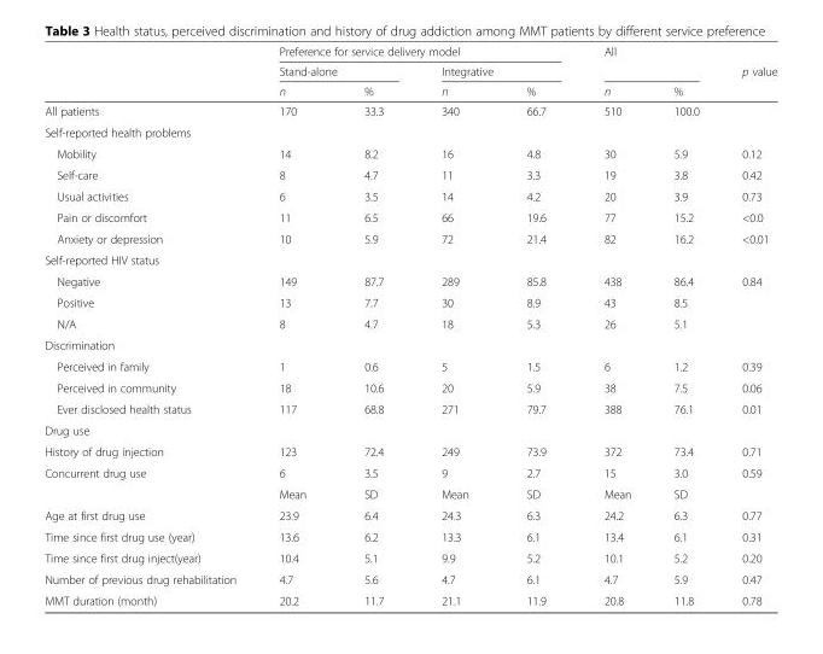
<table><thead><tr><td rowspan="3"></td><td colspan="4">Preference for service delivery model</td><td rowspan="2" colspan="2">All</td><td rowspan="3">p value</td></tr><tr><td colspan="2">Stand-alone</td><td colspan="2">Integrative</td></tr><tr><td>n</td><td>%</td><td>n</td><td>%</td><td>n</td><td>%</td></tr></thead><tbody><tr><td>All patients</td><td>170</td><td>33.3</td><td>340</td><td>66.7</td><td>510</td><td>100.0</td><td></td></tr><tr><td colspan="8">Self-reported health problems</td></tr><tr><td>Mobility</td><td>14</td><td>8.2</td><td>16</td><td>4.8</td><td>30</td><td>5.9</td><td>0.12</td></tr><tr><td>Self-care</td><td>8</td><td>4.7</td><td>11</td><td>3.3</td><td>19</td><td>3.8</td><td>0.42</td></tr><tr><td>Usual activities</td><td>6</td><td>3.5</td><td>14</td><td>4.2</td><td>20</td><td>3.9</td><td>0.73</td></tr><tr><td>Pain or discomfort</td><td>11</td><td>6.5</td><td>66</td><td>19.6</td><td>77</td><td>15.2</td><td>&lt;0.0</td></tr><tr><td>Anxiety or depression</td><td>10</td><td>5.9</td><td>72</td><td>21.4</td><td>82</td><td>16.2</td><td>&lt;0.01</td></tr><tr><td colspan="8">Self-reported HIV status</td></tr><tr><td>Negative</td><td>149</td><td>87.7</td><td>289</td><td>85.8</td><td>438</td><td>86.4</td><td>0.84</td></tr><tr><td>Positive</td><td>13</td><td>7.7</td><td>30</td><td>8.9</td><td>43</td><td>8.5</td><td></td></tr><tr><td>N/A</td><td>8</td><td>4.7</td><td>18</td><td>5.3</td><td>26</td><td>5.1</td><td></td></tr><tr><td colspan="8">Discrimination</td></tr><tr><td>Perceived in family</td><td>1</td><td>0.6</td><td>5</td><td>1.5</td><td>6</td><td>1.2</td><td>0.39</td></tr><tr><td>Perceived in community</td><td>18</td><td>10.6</td><td>20</td><td>5.9</td><td>38</td><td>7.5</td><td>0.06</td></tr><tr><td>Ever disclosed health status</td><td>117</td><td>68.8</td><td>271</td><td>79.7</td><td>388</td><td>76.1</td><td>0.01</td></tr><tr><td colspan="8">Drug use</td></tr><tr><td>History of drug injection</td><td>123</td><td>72.4</td><td>249</td><td>73.9</td><td>372</td><td>73.4</td><td>0.71</td></tr><tr><td rowspan="2">Concurrent drug use</td><td>6</td><td>3.5</td><td>9</td><td>2.7</td><td>15</td><td>3.0</td><td>0.59</td></tr><tr><td>Mean</td><td>SD</td><td>Mean</td><td>SD</td><td>Mean</td><td>SD</td><td></td></tr><tr><td>Age at first drug use</td><td>23.9</td><td>6.4</td><td>24.3</td><td>6.3</td><td>24.2</td><td>6.3</td><td>0.77</td></tr><tr><td>Time since first drug use (year)</td><td>13.6</td><td>6.2</td><td>13.3</td><td>6.1</td><td>13.4</td><td>6.1</td><td>0.31</td></tr><tr><td>Time since first drug inject(year)</td><td>10.4</td><td>5.1</td><td>9.9</td><td>5.2</td><td>10.1</td><td>5.2</td><td>0.20</td></tr><tr><td>Number of previous drug rehabilitation</td><td>4.7</td><td>5.6</td><td>4.7</td><td>6.1</td><td>4.7</td><td>5.9</td><td>0.47</td></tr><tr><td>MMT duration (month)</td><td>20.2</td><td>11.7</td><td>21.1</td><td>11.9</td><td>20.8</td><td>11.8</td><td>0.78</td></tr></tbody></table>